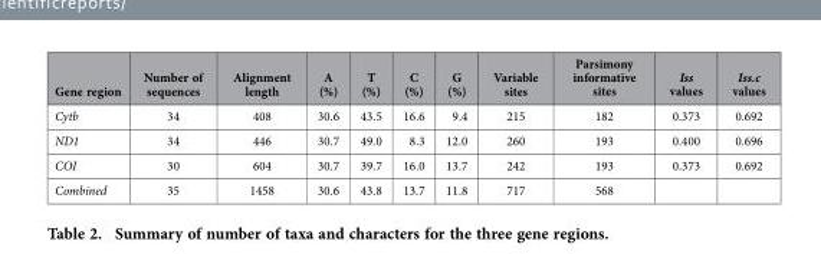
<table><thead><tr><td>Gene region</td><td>Number of sequences</td><td>Alignment length</td><td>A (%)</td><td>T (%)</td><td>C (%)</td><td>G (%)</td><td>Variable sites</td><td>Parsimony informative sites</td><td>Iss values</td><td>Iss.c values</td></tr></thead><tbody><tr><td>Cytb</td><td>34</td><td>408</td><td>30.6</td><td>43.5</td><td>16.6</td><td>9.4</td><td>215</td><td>182</td><td>0.373</td><td>0.692</td></tr><tr><td>ND1</td><td>34</td><td>446</td><td>30.7</td><td>49.0</td><td>8.3</td><td>12.0</td><td>260</td><td>193</td><td>0.400</td><td>0.696</td></tr><tr><td>COI</td><td>30</td><td>604</td><td>30.7</td><td>39.7</td><td>16.0</td><td>13.7</td><td>242</td><td>193</td><td>0.373</td><td>0.692</td></tr><tr><td>Combined</td><td>35</td><td>1458</td><td>30.6</td><td>43.8</td><td>13.7</td><td>11.8</td><td>717</td><td>568</td><td></td><td></td></tr></tbody></table>